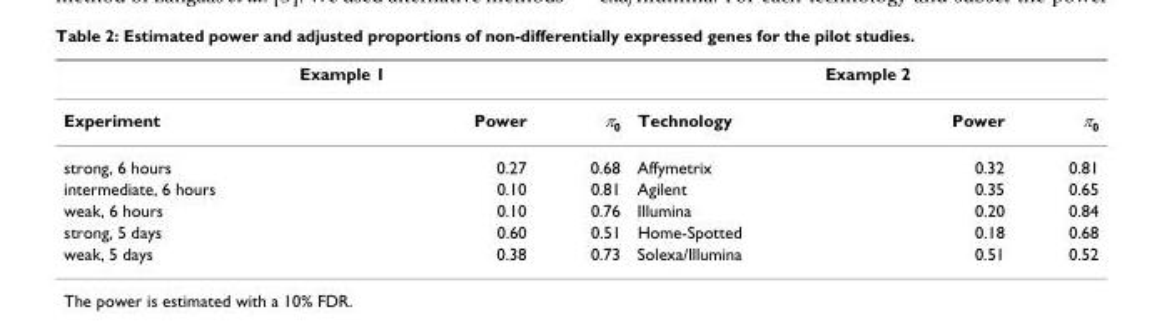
<table><thead><tr><td colspan="3">Example 1</td><td colspan="3">Example 2</td></tr><tr><td>Experiment</td><td>Power</td><td>π<sub>0</sub></td><td>Technology</td><td>Power</td><td>π<sub>0</sub></td></tr></thead><tbody><tr><td>strong, 6 hours</td><td>0.27</td><td>0.68</td><td>Affymetrix</td><td>0.32</td><td>0.81</td></tr><tr><td>intermediate, 6 hours</td><td>0.10</td><td>0.81</td><td>Agilent</td><td>0.35</td><td>0.65</td></tr><tr><td>weak, 6 hours</td><td>0.10</td><td>0.76</td><td>Illumina</td><td>0.20</td><td>0.84</td></tr><tr><td>strong, 5 days</td><td>0.60</td><td>0.51</td><td>Home-Spotted</td><td>0.18</td><td>0.68</td></tr><tr><td>weak, 5 days</td><td>0.38</td><td>0.73</td><td>Solexa/Illumina</td><td>0.51</td><td>0.52</td></tr></tbody></table>